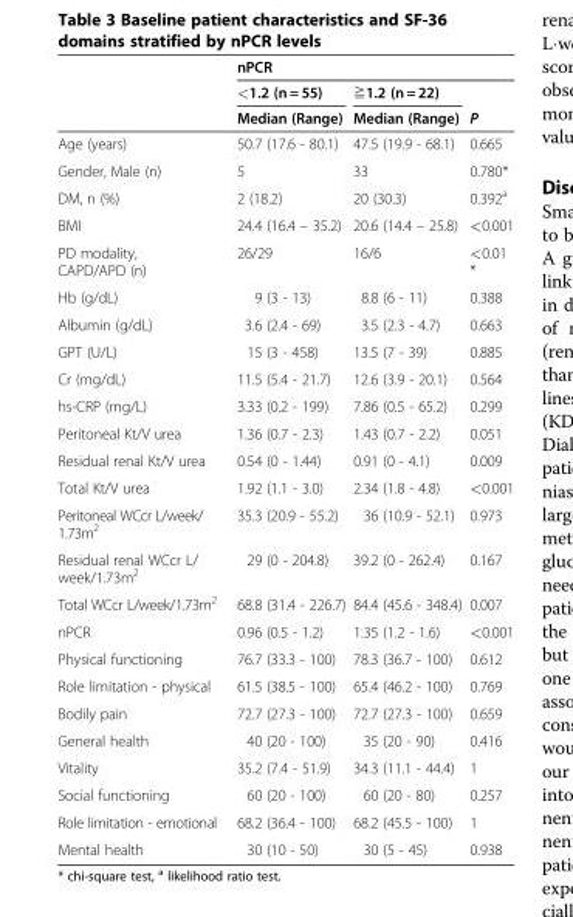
<table><thead><tr><td rowspan="3"></td><td colspan="2">nPCR</td><td rowspan="3">P</td></tr><tr><td rowspan="2">&lt;1.2 (n = 55) Median (Range)</td><td rowspan="2">≧1.2 (n = 22) Median (Range)</td></tr><tr></tr></thead><tbody><tr><td>Age (years)</td><td>50.7 (17.6 - 80.1)</td><td>47.5 (19.9 - 68.1)</td><td>0.665</td></tr><tr><td>Gender, Male (n)</td><td>5</td><td>33</td><td>0.780*</td></tr><tr><td>DM, n (%)</td><td>2 (18.2)</td><td>20 (30.3)</td><td>0.392<sup>a</sup></td></tr><tr><td>BMI</td><td>24.4 (16.4 – 35.2)</td><td>20.6 (14.4 – 25.8)</td><td>&lt;0.001</td></tr><tr><td>PD modality, CAPD/APD (n)</td><td>26/29</td><td>16/6</td><td>&lt;0.01 *</td></tr><tr><td>Hb (g/dL)</td><td>9 (3 - 13)</td><td>8.8 (6 - 11)</td><td>0.388</td></tr><tr><td>Albumin (g/dL)</td><td>3.6 (2.4 - 69)</td><td>3.5 (2.3 - 4.7)</td><td>0.663</td></tr><tr><td>GPT (U/L)</td><td>15 (3 - 458)</td><td>13.5 (7 - 39)</td><td>0.885</td></tr><tr><td>Cr (mg/dL)</td><td>11.5 (5.4 - 21.7)</td><td>12.6 (3.9 - 20.1)</td><td>0.564</td></tr><tr><td>hs-CRP (mg/L)</td><td>3.33 (0.2 - 199)</td><td>7.86 (0.5 - 65.2)</td><td>0.299</td></tr><tr><td>Peritoneal Kt/V urea</td><td>1.36 (0.7 - 2.3)</td><td>1.43 (0.7 - 2.2)</td><td>0.051</td></tr><tr><td>Residual renal Kt/V urea</td><td>0.54 (0 - 1.44)</td><td>0.91 (0 - 4.1)</td><td>0.009</td></tr><tr><td>Total Kt/V urea</td><td>1.92 (1.1 - 3.0)</td><td>2.34 (1.8 - 4.8)</td><td>&lt;0.001</td></tr><tr><td>Peritoneal WCcr L/week/ 1.73m<sup>2</sup></td><td>35.3 (20.9 - 55.2)</td><td>36 (10.9 - 52.1)</td><td>0.973</td></tr><tr><td>Residual renal WCcr L/ week/1.73m<sup>2</sup></td><td>29 (0 - 204.8)</td><td>39.2 (0 - 262.4)</td><td>0.167</td></tr><tr><td>Total WCcr L/week/1.73m<sup>2</sup></td><td>68.8 (31.4 - 226.7)</td><td>84.4 (45.6 - 348.4)</td><td>0.007</td></tr><tr><td>nPCR</td><td>0.96 (0.5 - 1.2)</td><td>1.35 (1.2 - 1.6)</td><td>&lt;0.001</td></tr><tr><td>Physical functioning</td><td>76.7 (33.3 - 100)</td><td>78.3 (36.7 - 100)</td><td>0.612</td></tr><tr><td>Role limitation - physical</td><td>61.5 (38.5 - 100)</td><td>65.4 (46.2 - 100)</td><td>0.769</td></tr><tr><td>Bodily pain</td><td>72.7 (27.3 - 100)</td><td>72.7 (27.3 - 100)</td><td>0.659</td></tr><tr><td>General health</td><td>40 (20 - 100)</td><td>35 (20 - 90)</td><td>0.416</td></tr><tr><td>Vitality</td><td>35.2 (7.4 - 51.9)</td><td>34.3 (11.1 - 44.4)</td><td>1</td></tr><tr><td>Social functioning</td><td>60 (20 - 100)</td><td>60 (20 - 80)</td><td>0.257</td></tr><tr><td>Role limitation - emotional</td><td>68.2 (36.4 - 100)</td><td>68.2 (45.5 - 100)</td><td>1</td></tr><tr><td>Mental health</td><td>30 (10 - 50)</td><td>30 (5 - 45)</td><td>0.938</td></tr></tbody></table>